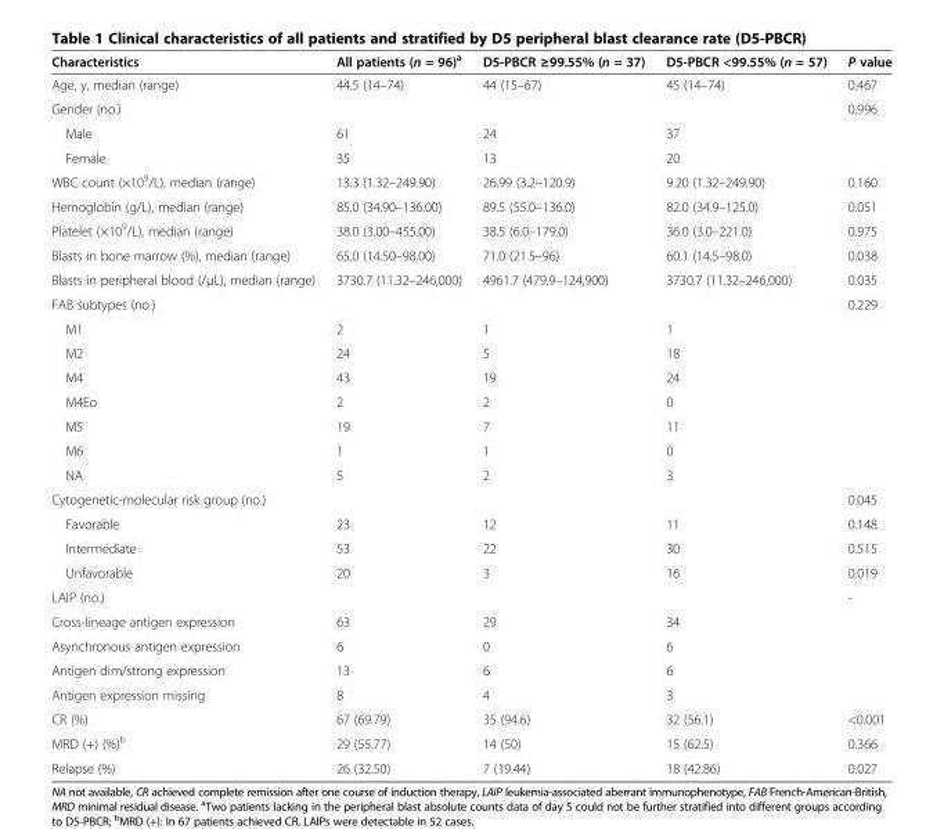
<table><thead><tr><td>Characteristics</td><td>All patients (n = 96)<sup>a</sup></td><td>D5-PBCR ≥99.55% (n = 37)</td><td>D5-PBCR &lt;99.55% (n = 57)</td><td>P value</td></tr></thead><tbody><tr><td>Age, y, median (range)</td><td>44.5 (14–74)</td><td>44 (15–67)</td><td>45 (14–74)</td><td>0.467</td></tr><tr><td colspan="4">Gender (no.)</td><td>0.996</td></tr><tr><td>Male</td><td>61</td><td>24</td><td>37</td><td></td></tr><tr><td>Female</td><td>35</td><td>13</td><td>20</td><td></td></tr><tr><td>WBC count (×10<sup>9</sup>/L), median (range)</td><td>13.3 (1.32–249.90)</td><td>26.99 (3.2–120.9)</td><td>9.20 (1.32–249.90)</td><td>0.160</td></tr><tr><td>Hemoglobin (g/L), median (range)</td><td>85.0 (34.90–136.00)</td><td>89.5 (55.0–136.0)</td><td>82.0 (34.9–125.0)</td><td>0.051</td></tr><tr><td>Platelet (×10<sup>9</sup>/L), median (range)</td><td>38.0 (3.00–455.00)</td><td>38.5 (6.0–179.0)</td><td>36.0 (3.0–221.0)</td><td>0.975</td></tr><tr><td>Blasts in bone marrow (%), median (range)</td><td>65.0 (14.50–98.00)</td><td>71.0 (21.5–96)</td><td>60.1 (14.5–98.0)</td><td>0.038</td></tr><tr><td>Blasts in peripheral blood (/μL), median (range)</td><td>3730.7 (11.32–246,000)</td><td>4961.7 (479.9–124,900)</td><td>3730.7 (11.32–246,000)</td><td>0.035</td></tr><tr><td colspan="4">FAB subtypes (no.)</td><td>0.229</td></tr><tr><td>M1</td><td>2</td><td>1</td><td>1</td><td></td></tr><tr><td>M2</td><td>24</td><td>5</td><td>18</td><td></td></tr><tr><td>M4</td><td>43</td><td>19</td><td>24</td><td></td></tr><tr><td>M4Eo</td><td>2</td><td>2</td><td>0</td><td></td></tr><tr><td>M5</td><td>19</td><td>7</td><td>11</td><td></td></tr><tr><td>M6</td><td>1</td><td>1</td><td>0</td><td></td></tr><tr><td>NA</td><td>5</td><td>2</td><td>3</td><td></td></tr><tr><td colspan="4">Cytogenetic-molecular risk group (no.)</td><td>0.045</td></tr><tr><td>Favorable</td><td>23</td><td>12</td><td>11</td><td>0.148</td></tr><tr><td>Intermediate</td><td>53</td><td>22</td><td>30</td><td>0.515</td></tr><tr><td>Unfavorable</td><td>20</td><td>3</td><td>16</td><td>0.019</td></tr><tr><td colspan="4">LAIP (no.)</td><td>-</td></tr><tr><td>Cross-lineage antigen expression</td><td>63</td><td>29</td><td>34</td><td></td></tr><tr><td>Asynchronous antigen expression</td><td>6</td><td>0</td><td>6</td><td></td></tr><tr><td>Antigen dim/strong expression</td><td>13</td><td>6</td><td>6</td><td></td></tr><tr><td>Antigen expression missing</td><td>8</td><td>4</td><td>3</td><td></td></tr><tr><td>CR (%)</td><td>67 (69.79)</td><td>35 (94.6)</td><td>32 (56.1)</td><td>&lt;0.001</td></tr><tr><td>MRD (+) (%)<sup>b</sup></td><td>29 (55.77)</td><td>14 (50)</td><td>15 (62.5)</td><td>0.366</td></tr><tr><td>Relapse (%)</td><td>26 (32.50)</td><td>7 (19.44)</td><td>18 (42.86)</td><td>0.027</td></tr></tbody></table>